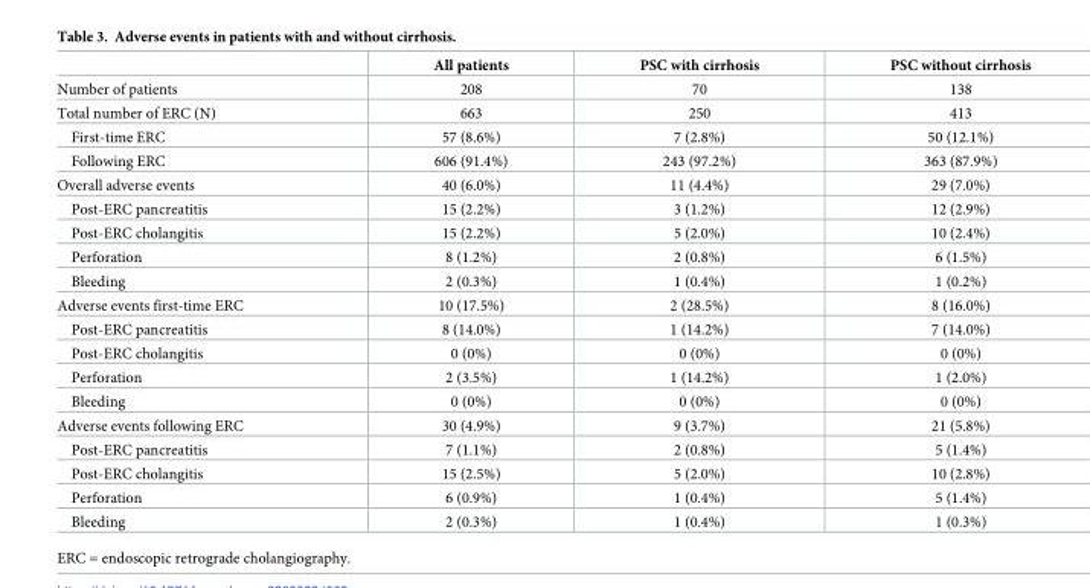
<table><thead><tr><td></td><td>All patients</td><td>PSC with cirrhosis</td><td>PSC without cirrhosis</td></tr></thead><tbody><tr><td>Number of patients</td><td>208</td><td>70</td><td>138</td></tr><tr><td>Total number of ERC (N)</td><td>663</td><td>250</td><td>413</td></tr><tr><td>First-time ERC</td><td>57 (8.6%)</td><td>7 (2.8%)</td><td>50 (12.1%)</td></tr><tr><td>Following ERC</td><td>606 (91.4%)</td><td>243 (97.2%)</td><td>363 (87.9%)</td></tr><tr><td>Overall adverse events</td><td>40 (6.0%)</td><td>11 (4.4%)</td><td>29 (7.0%)</td></tr><tr><td>Post-ERC pancreatitis</td><td>15 (2.2%)</td><td>3 (1.2%)</td><td>12 (2.9%)</td></tr><tr><td>Post-ERC cholangitis</td><td>15 (2.2%)</td><td>5 (2.0%)</td><td>10 (2.4%)</td></tr><tr><td>Perforation</td><td>8 (1.2%)</td><td>2 (0.8%)</td><td>6 (1.5%)</td></tr><tr><td>Bleeding</td><td>2 (0.3%)</td><td>1 (0.4%)</td><td>1 (0.2%)</td></tr><tr><td>Adverse events first-time ERC</td><td>10 (17.5%)</td><td>2 (28.5%)</td><td>8 (16.0%)</td></tr><tr><td>Post-ERC pancreatitis</td><td>8 (14.0%)</td><td>1 (14.2%)</td><td>7 (14.0%)</td></tr><tr><td>Post-ERC cholangitis</td><td>0 (0%)</td><td>0 (0%)</td><td>0 (0%)</td></tr><tr><td>Perforation</td><td>2 (3.5%)</td><td>1 (14.2%)</td><td>1 (2.0%)</td></tr><tr><td>Bleeding</td><td>0 (0%)</td><td>0 (0%)</td><td>0 (0%)</td></tr><tr><td>Adverse events following ERC</td><td>30 (4.9%)</td><td>9 (3.7%)</td><td>21 (5.8%)</td></tr><tr><td>Post-ERC pancreatitis</td><td>7 (1.1%)</td><td>2 (0.8%)</td><td>5 (1.4%)</td></tr><tr><td>Post-ERC cholangitis</td><td>15 (2.5%)</td><td>5 (2.0%)</td><td>10 (2.8%)</td></tr><tr><td>Perforation</td><td>6 (0.9%)</td><td>1 (0.4%)</td><td>5 (1.4%)</td></tr><tr><td>Bleeding</td><td>2 (0.3%)</td><td>1 (0.4%)</td><td>1 (0.3%)</td></tr></tbody></table>